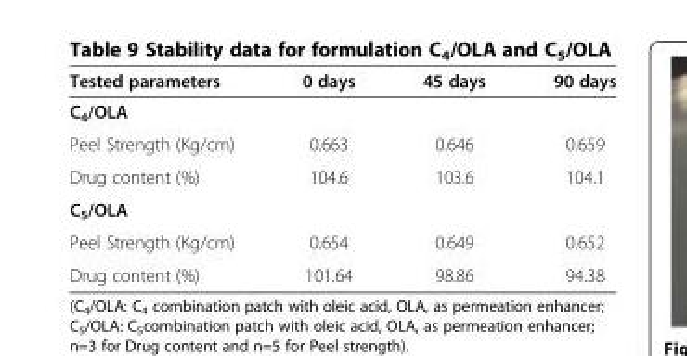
<table><thead><tr><td>Tested parameters</td><td>0 days</td><td>45 days</td><td>90 days</td></tr></thead><tbody><tr><td colspan="4">C<sub>4</sub>/OLA</td></tr><tr><td>Peel Strength (Kg/cm)</td><td>0.663</td><td>0.646</td><td>0.659</td></tr><tr><td>Drug content (%)</td><td>104.6</td><td>103.6</td><td>104.1</td></tr><tr><td colspan="4">C<sub>5</sub>/OLA</td></tr><tr><td>Peel Strength (Kg/cm)</td><td>0.654</td><td>0.649</td><td>0.652</td></tr><tr><td>Drug content (%)</td><td>101.64</td><td>98.86</td><td>94.38</td></tr></tbody></table>